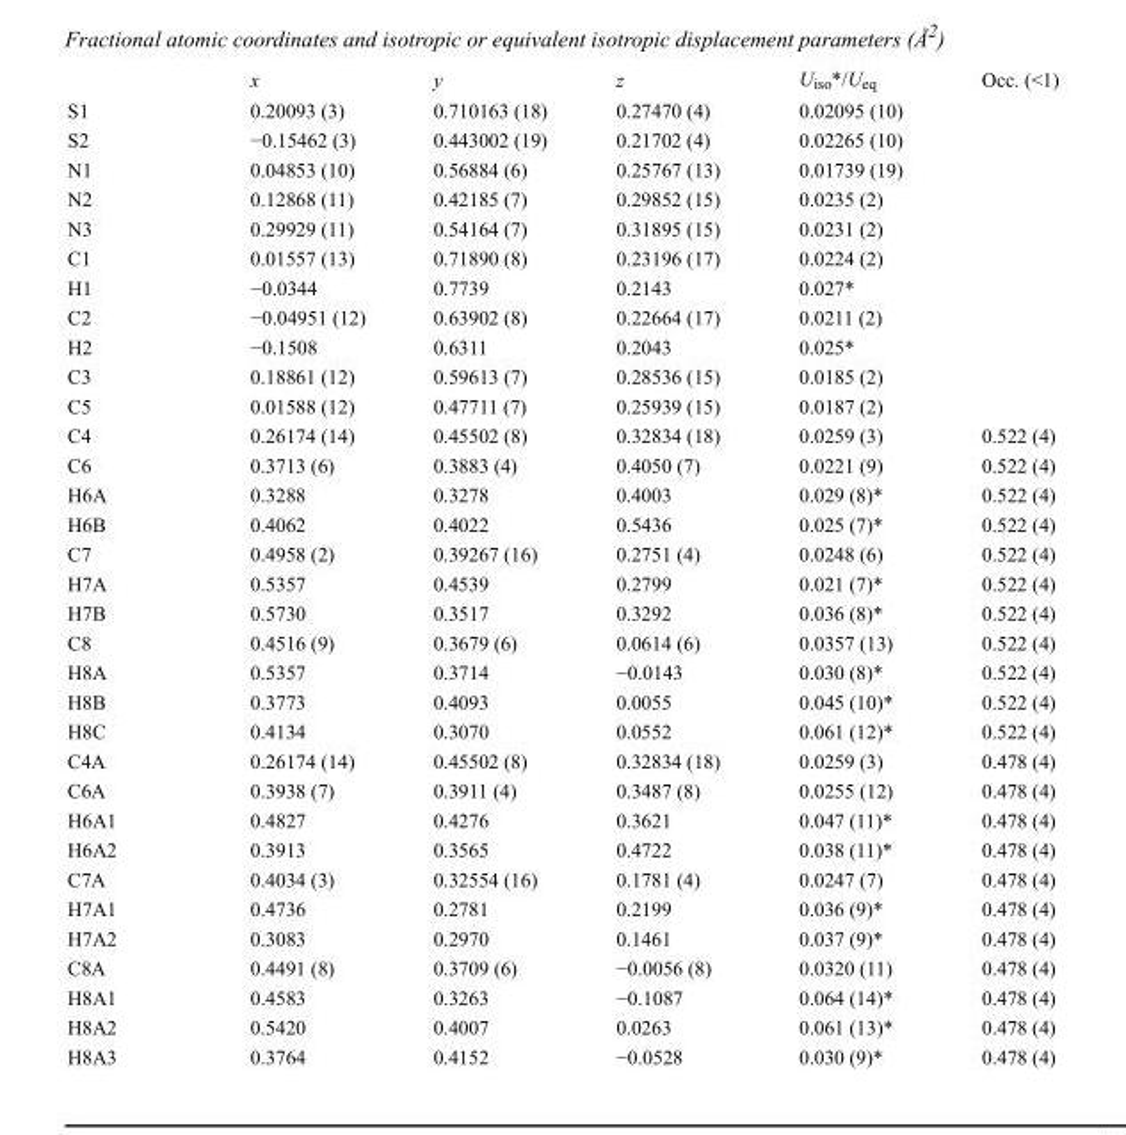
<table><thead><tr><td></td><td>x</td><td>y</td><td>z</td><td>U<sub>iso</sub>*/U<sub>eq</sub></td><td>Occ. (&lt;1)</td></tr></thead><tbody><tr><td>S1</td><td>0.20093 (3)</td><td>0.710163 (18)</td><td>0.27470 (4)</td><td>0.02095 (10)</td><td></td></tr><tr><td>S2</td><td>−0.15462 (3)</td><td>0.443002 (19)</td><td>0.21702 (4)</td><td>0.02265 (10)</td><td></td></tr><tr><td>N1</td><td>0.04853 (10)</td><td>0.56884 (6)</td><td>0.25767 (13)</td><td>0.01739 (19)</td><td></td></tr><tr><td>N2</td><td>0.12868 (11)</td><td>0.42185 (7)</td><td>0.29852 (15)</td><td>0.0235 (2)</td><td></td></tr><tr><td>N3</td><td>0.29929 (11)</td><td>0.54164 (7)</td><td>0.31895 (15)</td><td>0.0231 (2)</td><td></td></tr><tr><td>C1</td><td>0.01557 (13)</td><td>0.71890 (8)</td><td>0.23196 (17)</td><td>0.0224 (2)</td><td></td></tr><tr><td>H1</td><td>−0.0344</td><td>0.7739</td><td>0.2143</td><td>0.027*</td><td></td></tr><tr><td>C2</td><td>−0.04951 (12)</td><td>0.63902 (8)</td><td>0.22664 (17)</td><td>0.0211 (2)</td><td></td></tr><tr><td>H2</td><td>−0.1508</td><td>0.6311</td><td>0.2043</td><td>0.025*</td><td></td></tr><tr><td>C3</td><td>0.18861 (12)</td><td>0.59613 (7)</td><td>0.28536 (15)</td><td>0.0185 (2)</td><td></td></tr><tr><td>C5</td><td>0.01588 (12)</td><td>0.47711 (7)</td><td>0.25939 (15)</td><td>0.0187 (2)</td><td></td></tr><tr><td>C4</td><td>0.26174 (14)</td><td>0.45502 (8)</td><td>0.32834 (18)</td><td>0.0259 (3)</td><td>0.522 (4)</td></tr><tr><td>C6</td><td>0.3713 (6)</td><td>0.3883 (4)</td><td>0.4050 (7)</td><td>0.0221 (9)</td><td>0.522 (4)</td></tr><tr><td>H6A</td><td>0.3288</td><td>0.3278</td><td>0.4003</td><td>0.029 (8)*</td><td>0.522 (4)</td></tr><tr><td>H6B</td><td>0.4062</td><td>0.4022</td><td>0.5436</td><td>0.025 (7)*</td><td>0.522 (4)</td></tr><tr><td>C7</td><td>0.4958 (2)</td><td>0.39267 (16)</td><td>0.2751 (4)</td><td>0.0248 (6)</td><td>0.522 (4)</td></tr><tr><td>H7A</td><td>0.5357</td><td>0.4539</td><td>0.2799</td><td>0.021 (7)*</td><td>0.522 (4)</td></tr><tr><td>H7B</td><td>0.5730</td><td>0.3517</td><td>0.3292</td><td>0.036 (8)*</td><td>0.522 (4)</td></tr><tr><td>C8</td><td>0.4516 (9)</td><td>0.3679 (6)</td><td>0.0614 (6)</td><td>0.0357 (13)</td><td>0.522 (4)</td></tr><tr><td>H8A</td><td>0.5357</td><td>0.3714</td><td>−0.0143</td><td>0.030 (8)*</td><td>0.522 (4)</td></tr><tr><td>H8B</td><td>0.3773</td><td>0.4093</td><td>0.0055</td><td>0.045 (10)*</td><td>0.522 (4)</td></tr><tr><td>H8C</td><td>0.4134</td><td>0.3070</td><td>0.0552</td><td>0.061 (12)*</td><td>0.522 (4)</td></tr><tr><td>C4A</td><td>0.26174 (14)</td><td>0.45502 (8)</td><td>0.32834 (18)</td><td>0.0259 (3)</td><td>0.478 (4)</td></tr><tr><td>C6A</td><td>0.3938 (7)</td><td>0.3911 (4)</td><td>0.3487 (8)</td><td>0.0255 (12)</td><td>0.478 (4)</td></tr><tr><td>H6A1</td><td>0.4827</td><td>0.4276</td><td>0.3621</td><td>0.047 (11)*</td><td>0.478 (4)</td></tr><tr><td>H6A2</td><td>0.3913</td><td>0.3565</td><td>0.4722</td><td>0.038 (11)*</td><td>0.478 (4)</td></tr><tr><td>C7A</td><td>0.4034 (3)</td><td>0.32554 (16)</td><td>0.1781 (4)</td><td>0.0247 (7)</td><td>0.478 (4)</td></tr><tr><td>H7A1</td><td>0.4736</td><td>0.2781</td><td>0.2199</td><td>0.036 (9)*</td><td>0.478 (4)</td></tr><tr><td>H7A2</td><td>0.3083</td><td>0.2970</td><td>0.1461</td><td>0.037 (9)*</td><td>0.478 (4)</td></tr><tr><td>C8A</td><td>0.4491 (8)</td><td>0.3709 (6)</td><td>−0.0056 (8)</td><td>0.0320 (11)</td><td>0.478 (4)</td></tr><tr><td>H8A1</td><td>0.4583</td><td>0.3263</td><td>−0.1087</td><td>0.064 (14)*</td><td>0.478 (4)</td></tr><tr><td>H8A2</td><td>0.5420</td><td>0.4007</td><td>0.0263</td><td>0.061 (13)*</td><td>0.478 (4)</td></tr><tr><td>H8A3</td><td>0.3764</td><td>0.4152</td><td>−0.0528</td><td>0.030 (9)*</td><td>0.478 (4)</td></tr></tbody></table>